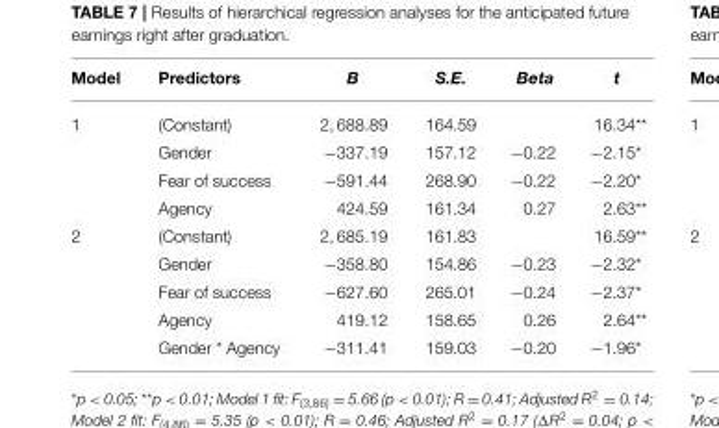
<table><thead><tr><td>Model</td><td>Predictors</td><td>B</td><td>S.E.</td><td>Beta</td><td>t</td></tr></thead><tbody><tr><td rowspan="4">1</td><td>(Constant)</td><td>2, 688.89</td><td>164.59</td><td></td><td>16.34**</td></tr><tr><td>Gender</td><td>−337.19</td><td>157.12</td><td>−0.22</td><td>−2.15*</td></tr><tr><td>Fear of success</td><td>−591.44</td><td>268.90</td><td>−0.22</td><td>−2.20*</td></tr><tr><td>Agency</td><td>424.59</td><td>161.34</td><td>0.27</td><td>2.63**</td></tr><tr><td rowspan="5">2</td><td>(Constant)</td><td>2, 685.19</td><td>161.83</td><td></td><td>16.59**</td></tr><tr><td>Gender</td><td>−358.80</td><td>154.86</td><td>−0.23</td><td>−2.32*</td></tr><tr><td>Fear of success</td><td>−627.60</td><td>265.01</td><td>−0.24</td><td>−2.37*</td></tr><tr><td>Agency</td><td>419.12</td><td>158.65</td><td>0.26</td><td>2.64**</td></tr><tr><td>Gender * Agency</td><td>−311.41</td><td>159.03</td><td>−0.20</td><td>−1.96*</td></tr></tbody></table>